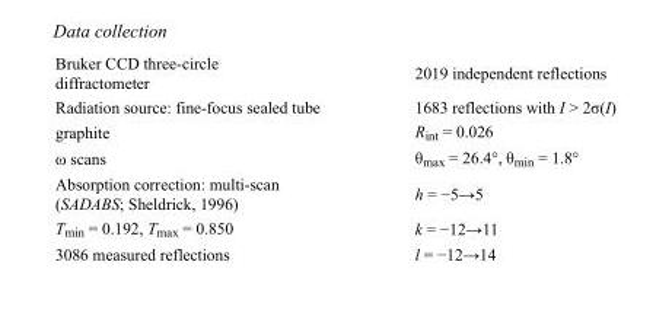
<table><tbody><tr><td>Bruker CCD three-circle diffractometer</td><td>2019 independent reflections</td></tr><tr><td>Radiation source: fine-focus sealed tube</td><td>1683 reflections with I &gt; 2σ(I)</td></tr><tr><td>graphite</td><td>R<sub>int</sub> = 0.026</td></tr><tr><td>ω scans</td><td>θ<sub>max</sub> = 26.4°, θ<sub>min</sub> = 1.8°</td></tr><tr><td>Absorption correction: multi-scan (SADABS; Sheldrick, 1996)</td><td>h = −5→5</td></tr><tr><td>T<sub>min</sub> = 0.192, T<sub>max</sub> = 0.850</td><td>k = −12→11</td></tr><tr><td>3086 measured reflections</td><td>l = −12→14</td></tr></tbody></table>